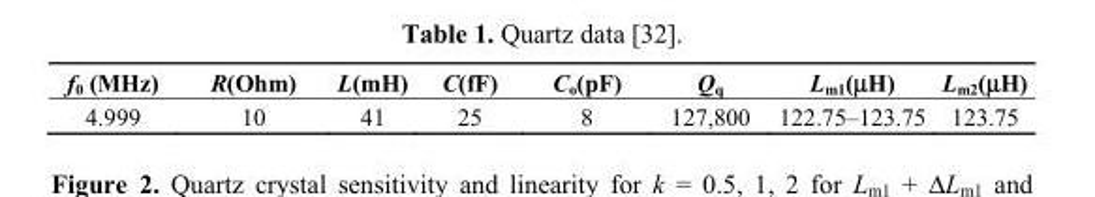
<table><thead><tr><td>f<sub>0</sub> (MHz)</td><td>R(Ohm)</td><td>L(mH)</td><td>C(fF)</td><td>C<sub>o</sub>(pF)</td><td>Q<sub>q</sub></td><td>L<sub>m1</sub>(μH)</td><td>L<sub>m2</sub>(μH)</td></tr></thead><tbody><tr><td>4.999</td><td>10</td><td>41</td><td>25</td><td>8</td><td>127,800</td><td>122.75–123.75</td><td>123.75</td></tr></tbody></table>